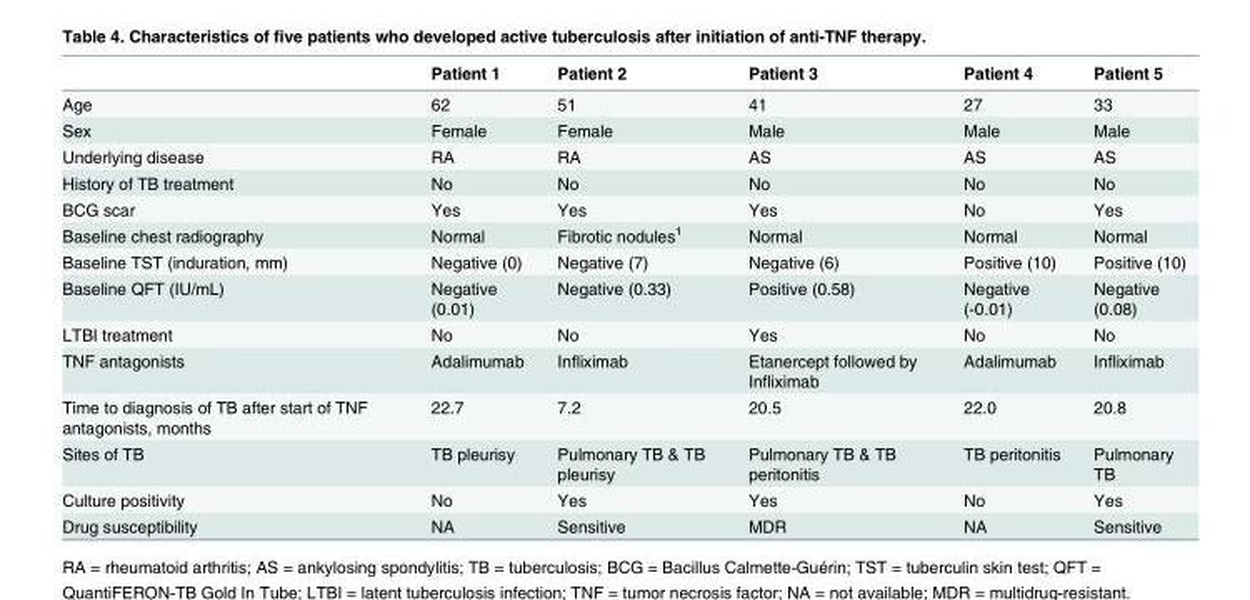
<table><thead><tr><td></td><td>Patient 1</td><td>Patient 2</td><td>Patient 3</td><td>Patient 4</td><td>Patient 5</td></tr></thead><tbody><tr><td>Age</td><td>62</td><td>51</td><td>41</td><td>27</td><td>33</td></tr><tr><td>Sex</td><td>Female</td><td>Female</td><td>Male</td><td>Male</td><td>Male</td></tr><tr><td>Underlying disease</td><td>RA</td><td>RA</td><td>AS</td><td>AS</td><td>AS</td></tr><tr><td>History of TB treatment</td><td>No</td><td>No</td><td>No</td><td>No</td><td>No</td></tr><tr><td>BCG scar</td><td>Yes</td><td>Yes</td><td>Yes</td><td>No</td><td>Yes</td></tr><tr><td>Baseline chest radiography</td><td>Normal</td><td>Fibrotic nodules<sup>1</sup></td><td>Normal</td><td>Normal</td><td>Normal</td></tr><tr><td>Baseline TST (induration, mm)</td><td>Negative (0)</td><td>Negative (7)</td><td>Negative (6)</td><td>Positive (10)</td><td>Positive (10)</td></tr><tr><td>Baseline QFT (IU/mL)</td><td>Negative (0.01)</td><td>Negative (0.33)</td><td>Positive (0.58)</td><td>Negative (-0.01)</td><td>Negative (0.08)</td></tr><tr><td>LTBI treatment</td><td>No</td><td>No</td><td>Yes</td><td>No</td><td>No</td></tr><tr><td>TNF antagonists</td><td>Adalimumab</td><td>Infliximab</td><td>Etanercept followed by Infliximab</td><td>Adalimumab</td><td>Infliximab</td></tr><tr><td>Time to diagnosis of TB after start of TNF antagonists, months</td><td>22.7</td><td>7.2</td><td>20.5</td><td>22.0</td><td>20.8</td></tr><tr><td>Sites of TB</td><td>TB pleurisy</td><td>Pulmonary TB &amp; TB pleurisy</td><td>Pulmonary TB &amp; TB peritonitis</td><td>TB peritonitis</td><td>Pulmonary TB</td></tr><tr><td>Culture positivity</td><td>No</td><td>Yes</td><td>Yes</td><td>No</td><td>Yes</td></tr><tr><td>Drug susceptibility</td><td>NA</td><td>Sensitive</td><td>MDR</td><td>NA</td><td>Sensitive</td></tr></tbody></table>